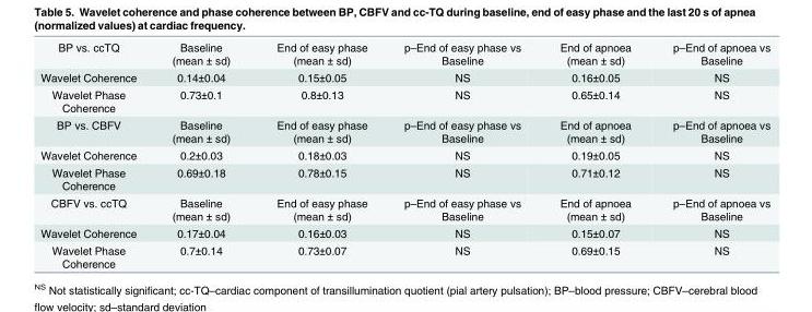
<table><tbody><tr><td>BP vs. ccTQ</td><td>Baseline (mean ± sd)</td><td>End of easy phase (mean ± sd)</td><td>p–End of easy phase vs Baseline</td><td>End of apnoea (mean ± sd)</td><td>p–End of apnoea vs Baseline</td></tr><tr><td>Wavelet Coherence</td><td>0.14±0.04</td><td>0.15±0.05</td><td>NS</td><td>0.16±0.05</td><td>NS</td></tr><tr><td>Wavelet Phase Coherence</td><td>0.73±0.1</td><td>0.8±0.13</td><td>NS</td><td>0.65±0.14</td><td>NS</td></tr><tr><td>BP vs. CBFV</td><td>Baseline (mean ± sd)</td><td>End of easy phase (mean ± sd)</td><td>p–End of easy phase vs Baseline</td><td>End of apnoea (mean ± sd)</td><td>p–End of apnoea vs Baseline</td></tr><tr><td>Wavelet Coherence</td><td>0.2±0.03</td><td>0.18±0.03</td><td>NS</td><td>0.19±0.05</td><td>NS</td></tr><tr><td>Wavelet Phase Coherence</td><td>0.69±0.18</td><td>0.78±0.15</td><td>NS</td><td>0.71±0.12</td><td>NS</td></tr><tr><td>CBFV vs. ccTQ</td><td>Baseline (mean ± sd)</td><td>End of easy phase (mean ± sd)</td><td>p–End of easy phase vs Baseline</td><td>End of apnoea (mean ± sd)</td><td>p–End of apnoea vs Baseline</td></tr><tr><td>Wavelet Coherence</td><td>0.17±0.04</td><td>0.16±0.03</td><td>NS</td><td>0.15±0.07</td><td>NS</td></tr><tr><td>Wavelet Phase Coherence</td><td>0.7±0.14</td><td>0.73±0.07</td><td>NS</td><td>0.69±0.15</td><td>NS</td></tr></tbody></table>